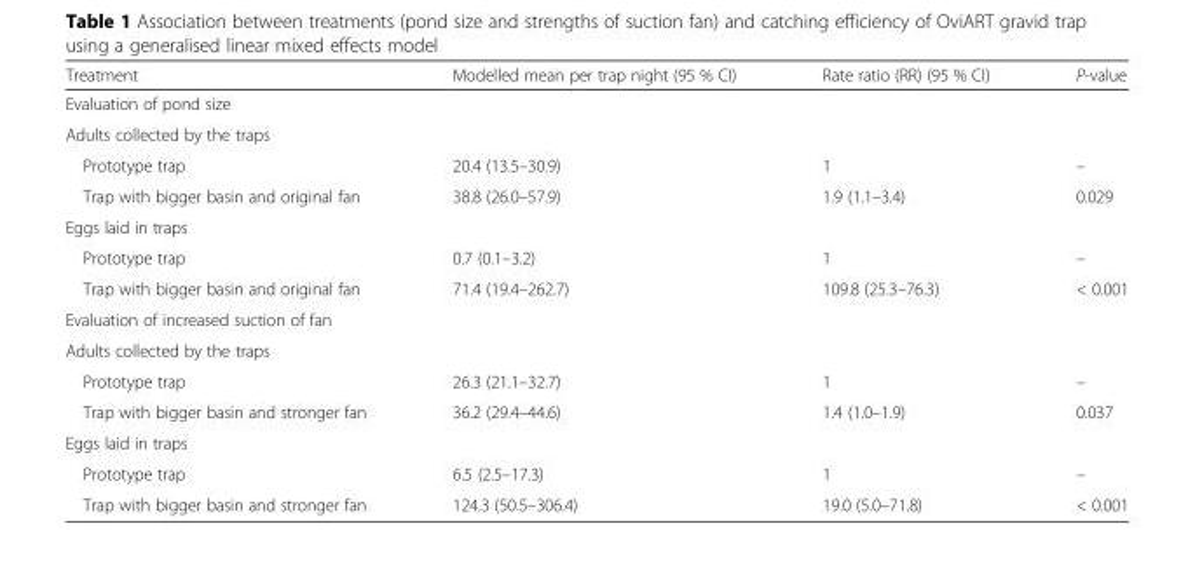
<table><thead><tr><td>Treatment</td><td>Modelled mean per trap night (95 % CI)</td><td>Rate ratio (RR) (95 % CI)</td><td>P-value</td></tr></thead><tbody><tr><td colspan="4">Evaluation of pond size</td></tr><tr><td colspan="4">Adults collected by the traps</td></tr><tr><td>Prototype trap</td><td>20.4 (13.5–30.9)</td><td>1</td><td>–</td></tr><tr><td>Trap with bigger basin and original fan</td><td>38.8 (26.0–57.9)</td><td>1.9 (1.1–3.4)</td><td>0.029</td></tr><tr><td colspan="4">Eggs laid in traps</td></tr><tr><td>Prototype trap</td><td>0.7 (0.1–3.2)</td><td>1</td><td>–</td></tr><tr><td>Trap with bigger basin and original fan</td><td>71.4 (19.4–262.7)</td><td>109.8 (25.3–76.3)</td><td>&lt; 0.001</td></tr><tr><td colspan="4">Evaluation of increased suction of fan</td></tr><tr><td colspan="4">Adults collected by the traps</td></tr><tr><td>Prototype trap</td><td>26.3 (21.1–32.7)</td><td>1</td><td>–</td></tr><tr><td>Trap with bigger basin and stronger fan</td><td>36.2 (29.4–44.6)</td><td>1.4 (1.0–1.9)</td><td>0.037</td></tr><tr><td colspan="4">Eggs laid in traps</td></tr><tr><td>Prototype trap</td><td>6.5 (2.5–17.3)</td><td>1</td><td>–</td></tr><tr><td>Trap with bigger basin and stronger fan</td><td>124.3 (50.5–306.4)</td><td>19.0 (5.0–71.8)</td><td>&lt; 0.001</td></tr></tbody></table>